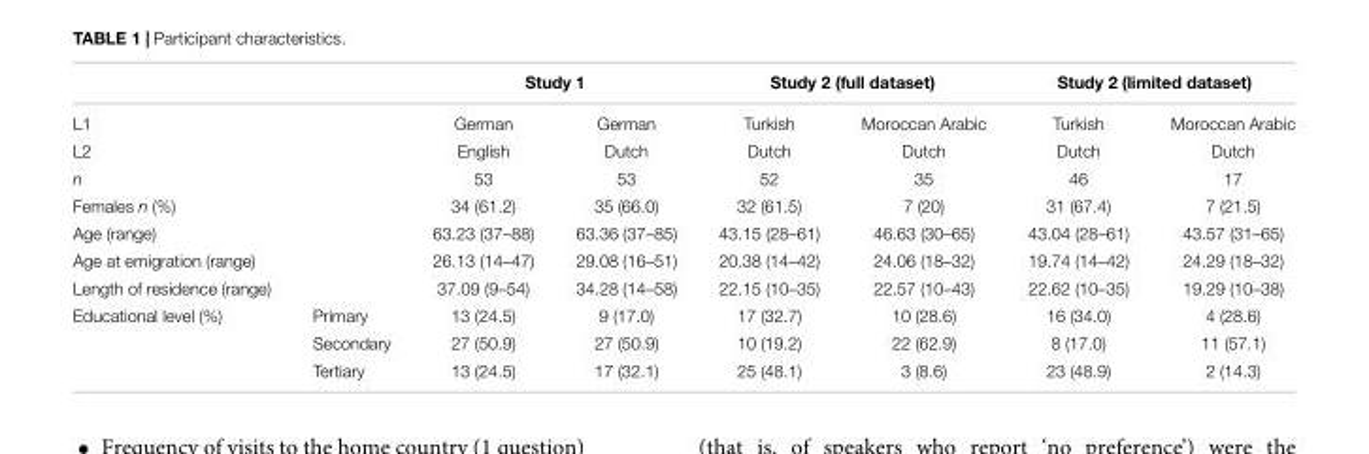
<table><thead><tr><td rowspan="2">L1</td><td rowspan="2"></td><td colspan="2">Study 1</td><td colspan="2">Study 2 (full dataset)</td><td colspan="2">Study 2 (limited dataset)</td></tr><tr><td>German</td><td>German</td><td>Turkish</td><td>Moroccan Arabic</td><td>Turkish</td><td>Moroccan Arabic</td></tr></thead><tbody><tr><td>L2</td><td></td><td>English</td><td>Dutch</td><td>Dutch</td><td>Dutch</td><td>Dutch</td><td>Dutch</td></tr><tr><td>n</td><td></td><td>53</td><td>53</td><td>52</td><td>35</td><td>46</td><td>17</td></tr><tr><td>Females n (%)</td><td></td><td>34 (61.2)</td><td>35 (66.0)</td><td>32 (61.5)</td><td>7 (20)</td><td>31 (67.4)</td><td>7 (21.5)</td></tr><tr><td>Age (range)</td><td></td><td>63.23 (37–88)</td><td>63.36 (37–85)</td><td>43.15 (28–61)</td><td>46.63 (30–65)</td><td>43.04 (28–61)</td><td>43.57 (31–65)</td></tr><tr><td>Age at emigration (range)</td><td></td><td>26.13 (14–47)</td><td>29.08 (16–51)</td><td>20.38 (14–42)</td><td>24.06 (18–32)</td><td>19.74 (14–42)</td><td>24.29 (18–32)</td></tr><tr><td>Length of residence (range)</td><td></td><td>37.09 (9–54)</td><td>34.28 (14–58)</td><td>22.15 (10–35)</td><td>22.57 (10–43)</td><td>22.62 (10–35)</td><td>19.29 (10–38)</td></tr><tr><td rowspan="3">Educational level (%)</td><td>Primary</td><td>13 (24.5)</td><td>9 (17.0)</td><td>17 (32.7)</td><td>10 (28.6)</td><td>16 (34.0)</td><td>4 (28.6)</td></tr><tr><td>Secondary</td><td>27 (50.9)</td><td>27 (50.9)</td><td>10 (19.2)</td><td>22 (62.9)</td><td>8 (17.0)</td><td>11 (57.1)</td></tr><tr><td>Tertiary</td><td>13 (24.5)</td><td>17 (32.1)</td><td>25 (48.1)</td><td>3 (8.6)</td><td>23 (48.9)</td><td>2 (14.3)</td></tr></tbody></table>